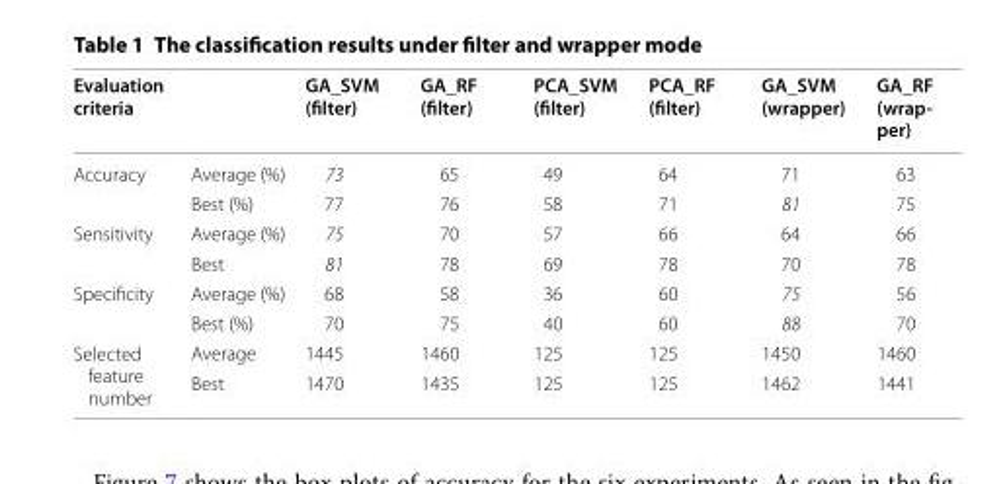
<table><thead><tr><td>Evaluation criteria</td><td></td><td>GA_SVM (filter)</td><td>GA_RF (filter)</td><td>PCA_SVM (filter)</td><td>PCA_RF (filter)</td><td>GA_SVM (wrapper)</td><td>GA_RF (wrap- per)</td></tr></thead><tbody><tr><td rowspan="2">Accuracy</td><td>Average (%)</td><td>73</td><td>65</td><td>49</td><td>64</td><td>71</td><td>63</td></tr><tr><td>Best (%)</td><td>77</td><td>76</td><td>58</td><td>71</td><td>81</td><td>75</td></tr><tr><td rowspan="2">Sensitivity</td><td>Average (%)</td><td>75</td><td>70</td><td>57</td><td>66</td><td>64</td><td>66</td></tr><tr><td>Best</td><td>81</td><td>78</td><td>69</td><td>78</td><td>70</td><td>78</td></tr><tr><td rowspan="2">Specificity</td><td>Average (%)</td><td>68</td><td>58</td><td>36</td><td>60</td><td>75</td><td>56</td></tr><tr><td>Best (%)</td><td>70</td><td>75</td><td>40</td><td>60</td><td>88</td><td>70</td></tr><tr><td rowspan="2">Selected feature number</td><td>Average</td><td>1445</td><td>1460</td><td>125</td><td>125</td><td>1450</td><td>1460</td></tr><tr><td>Best</td><td>1470</td><td>1435</td><td>125</td><td>125</td><td>1462</td><td>1441</td></tr></tbody></table>